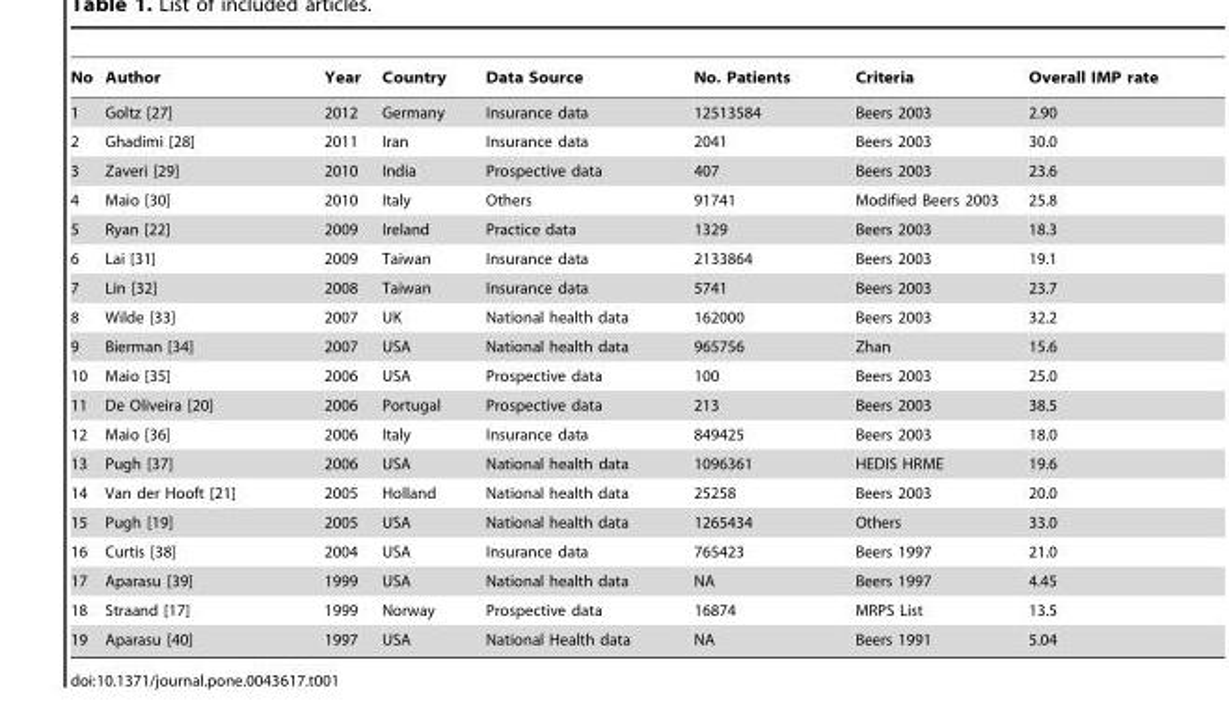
<table><thead><tr><td>No</td><td>Author</td><td>Year</td><td>Country</td><td>Data Source</td><td>No. Patients</td><td>Criteria</td><td>Overall IMP rate</td></tr></thead><tbody><tr><td>1</td><td>Goltz [27]</td><td>2012</td><td>Germany</td><td>Insurance data</td><td>12513584</td><td>Beers 2003</td><td>2.90</td></tr><tr><td>2</td><td>Ghadimi [28]</td><td>2011</td><td>Iran</td><td>Insurance data</td><td>2041</td><td>Beers 2003</td><td>30.0</td></tr><tr><td>3</td><td>Zaveri [29]</td><td>2010</td><td>India</td><td>Prospective data</td><td>407</td><td>Beers 2003</td><td>23.6</td></tr><tr><td>4</td><td>Maio [30]</td><td>2010</td><td>Italy</td><td>Others</td><td>91741</td><td>Modified Beers 2003</td><td>25.8</td></tr><tr><td>5</td><td>Ryan [22]</td><td>2009</td><td>Ireland</td><td>Practice data</td><td>1329</td><td>Beers 2003</td><td>18.3</td></tr><tr><td>6</td><td>Lai [31]</td><td>2009</td><td>Taiwan</td><td>Insurance data</td><td>2133864</td><td>Beers 2003</td><td>19.1</td></tr><tr><td>7</td><td>Lin [32]</td><td>2008</td><td>Taiwan</td><td>Insurance data</td><td>5741</td><td>Beers 2003</td><td>23.7</td></tr><tr><td>8</td><td>Wilde [33]</td><td>2007</td><td>UK</td><td>National health data</td><td>162000</td><td>Beers 2003</td><td>32.2</td></tr><tr><td>9</td><td>Bierman [34]</td><td>2007</td><td>USA</td><td>National health data</td><td>965756</td><td>Zhan</td><td>15.6</td></tr><tr><td>10</td><td>Maio [35]</td><td>2006</td><td>USA</td><td>Prospective data</td><td>100</td><td>Beers 2003</td><td>25.0</td></tr><tr><td>11</td><td>De Oliveira [20]</td><td>2006</td><td>Portugal</td><td>Prospective data</td><td>213</td><td>Beers 2003</td><td>38.5</td></tr><tr><td>12</td><td>Maio [36]</td><td>2006</td><td>Italy</td><td>Insurance data</td><td>849425</td><td>Beers 2003</td><td>18.0</td></tr><tr><td>13</td><td>Pugh [37]</td><td>2006</td><td>USA</td><td>National health data</td><td>1096361</td><td>HEDIS HRME</td><td>19.6</td></tr><tr><td>14</td><td>Van der Hooft [21]</td><td>2005</td><td>Holland</td><td>National health data</td><td>25258</td><td>Beers 2003</td><td>20.0</td></tr><tr><td>15</td><td>Pugh [19]</td><td>2005</td><td>USA</td><td>National health data</td><td>1265434</td><td>Others</td><td>33.0</td></tr><tr><td>16</td><td>Curtis [38]</td><td>2004</td><td>USA</td><td>Insurance data</td><td>765423</td><td>Beers 1997</td><td>21.0</td></tr><tr><td>17</td><td>Aparasu [39]</td><td>1999</td><td>USA</td><td>National health data</td><td>NA</td><td>Beers 1997</td><td>4.45</td></tr><tr><td>18</td><td>Straand [17]</td><td>1999</td><td>Norway</td><td>Prospective data</td><td>16874</td><td>MRPS List</td><td>13.5</td></tr><tr><td>19</td><td>Aparasu [40]</td><td>1997</td><td>USA</td><td>National Health data</td><td>NA</td><td>Beers 1991</td><td>5.04</td></tr></tbody></table>